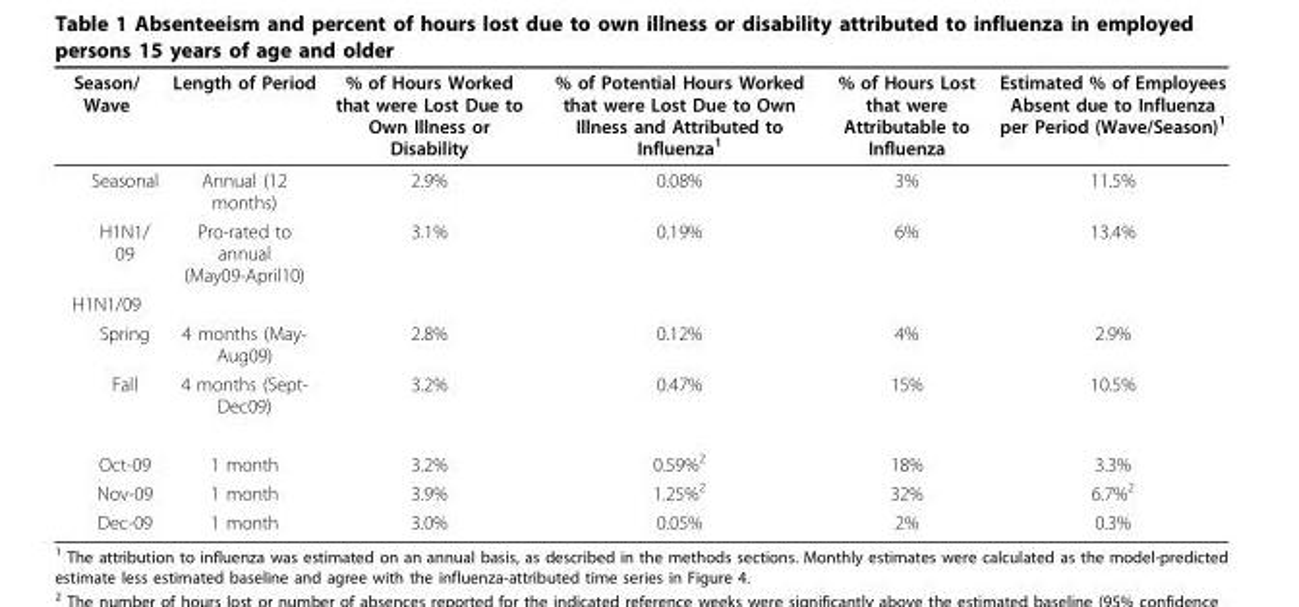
<table><thead><tr><td>Season/ Wave</td><td>Length of Period</td><td>% of Hours Worked that were Lost Due to Own Illness or Disability</td><td>% of Potential Hours Worked that were Lost Due to Own Illness and Attributed to Influenza<sup>1</sup></td><td>% of Hours Lost that were Attributable to Influenza</td><td>Estimated % of Employees Absent due to Influenza per Period (Wave/Season)<sup>1</sup></td></tr></thead><tbody><tr><td>Seasonal</td><td>Annual (12 months)</td><td>2.9%</td><td>0.08%</td><td>3%</td><td>11.5%</td></tr><tr><td>H1N1/ 09</td><td>Pro-rated to annual (May09-April10)</td><td>3.1%</td><td>0.19%</td><td>6%</td><td>13.4%</td></tr><tr><td colspan="6">H1N1/09</td></tr><tr><td>Spring</td><td>4 months (May- Aug09)</td><td>2.8%</td><td>0.12%</td><td>4%</td><td>2.9%</td></tr><tr><td>Fall</td><td>4 months (Sept- Dec09)</td><td>3.2%</td><td>0.47%</td><td>15%</td><td>10.5%</td></tr><tr><td>Oct-09</td><td>1 month</td><td>3.2%</td><td>0.59%<sup>2</sup></td><td>18%</td><td>3.3%</td></tr><tr><td>Nov-09</td><td>1 month</td><td>3.9%</td><td>1.25%<sup>2</sup></td><td>32%</td><td>6.7%<sup>2</sup></td></tr><tr><td>Dec-09</td><td>1 month</td><td>3.0%</td><td>0.05%</td><td>2%</td><td>0.3%</td></tr></tbody></table>